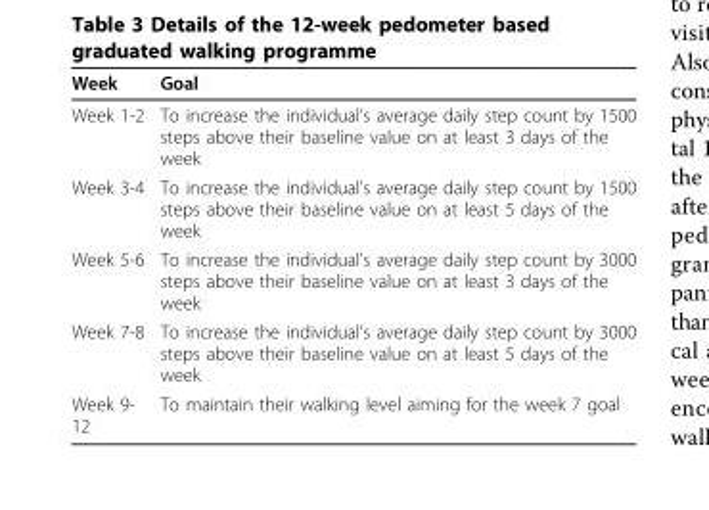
<table><thead><tr><td>Week</td><td>Goal</td></tr></thead><tbody><tr><td>Week 1-2</td><td>To increase the individual’s average daily step count by 1500 steps above their baseline value on at least 3 days of the week</td></tr><tr><td>Week 3-4</td><td>To increase the individual’s average daily step count by 1500 steps above their baseline value on at least 5 days of the week</td></tr><tr><td>Week 5-6</td><td>To increase the individual’s average daily step count by 3000 steps above their baseline value on at least 3 days of the week</td></tr><tr><td>Week 7-8</td><td>To increase the individual’s average daily step count by 3000 steps above their baseline value on at least 5 days of the week</td></tr><tr><td>Week 9- 12</td><td>To maintain their walking level aiming for the week 7 goal</td></tr></tbody></table>